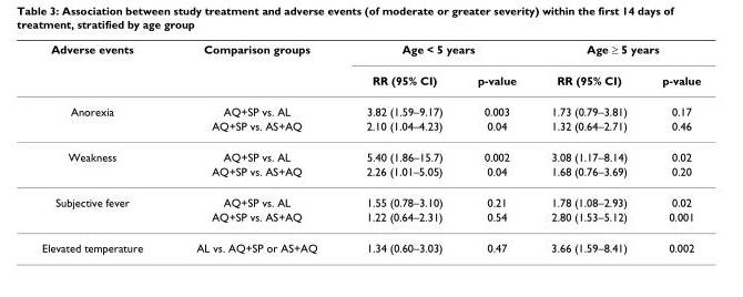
<table><thead><tr><td rowspan="2">Adverse events</td><td rowspan="2">Comparison groups</td><td colspan="2">Age &lt; 5 years</td><td colspan="2">Age ≥ 5 years</td></tr><tr><td>RR (95% CI)</td><td>p-value</td><td>RR (95% CI)</td><td>p-value</td></tr></thead><tbody><tr><td rowspan="2">Anorexia</td><td>AQ+SP vs. AL</td><td>3.82 (1.59–9.17)</td><td>0.003</td><td>1.73 (0.79–3.81)</td><td>0.17</td></tr><tr><td>AQ+SP vs. AS+AQ</td><td>2.10 (1.04–4.23)</td><td>0.04</td><td>1.32 (0.64–2.71)</td><td>0.46</td></tr><tr><td rowspan="2">Weakness</td><td>AQ+SP vs. AL</td><td>5.40 (1.86–15.7)</td><td>0.002</td><td>3.08 (1.17–8.14)</td><td>0.02</td></tr><tr><td>AQ+SP vs. AS+AQ</td><td>2.26 (1.01–5.05)</td><td>0.04</td><td>1.68 (0.76–3.69)</td><td>0.20</td></tr><tr><td rowspan="2">Subjective fever</td><td>AQ+SP vs. AL</td><td>1.55 (0.78–3.10)</td><td>0.21</td><td>1.78 (1.08–2.93)</td><td>0.02</td></tr><tr><td>AQ+SP vs. AS+AQ</td><td>1.22 (0.64–2.31)</td><td>0.54</td><td>2.80 (1.53–5.12)</td><td>0.001</td></tr><tr><td>Elevated temperature</td><td>AL vs. AQ+SP or AS+AQ</td><td>1.34 (0.60–3.03)</td><td>0.47</td><td>3.66 (1.59–8.41)</td><td>0.002</td></tr></tbody></table>